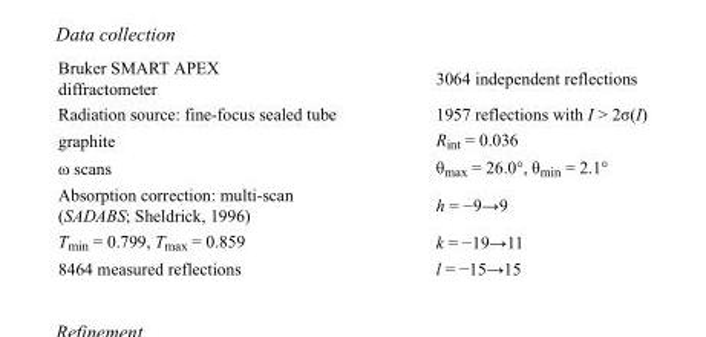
<table><tbody><tr><td>Bruker SMART APEX diffractometer</td><td>3064 independent reflections</td></tr><tr><td>Radiation source: fine-focus sealed tube</td><td>1957 reflections with I &gt; 2σ(I)</td></tr><tr><td>graphite</td><td>R<sub>int</sub> = 0.036</td></tr><tr><td>ω scans</td><td>θ<sub>max</sub> = 26.0°, θ<sub>min</sub> = 2.1°</td></tr><tr><td>Absorption correction: multi-scan (SADABS; Sheldrick, 1996)</td><td>h = −9→9</td></tr><tr><td>T<sub>min</sub> = 0.799, T<sub>max</sub> = 0.859</td><td>k = −19→11</td></tr><tr><td>8464 measured reflections</td><td>l = −15→15</td></tr></tbody></table>